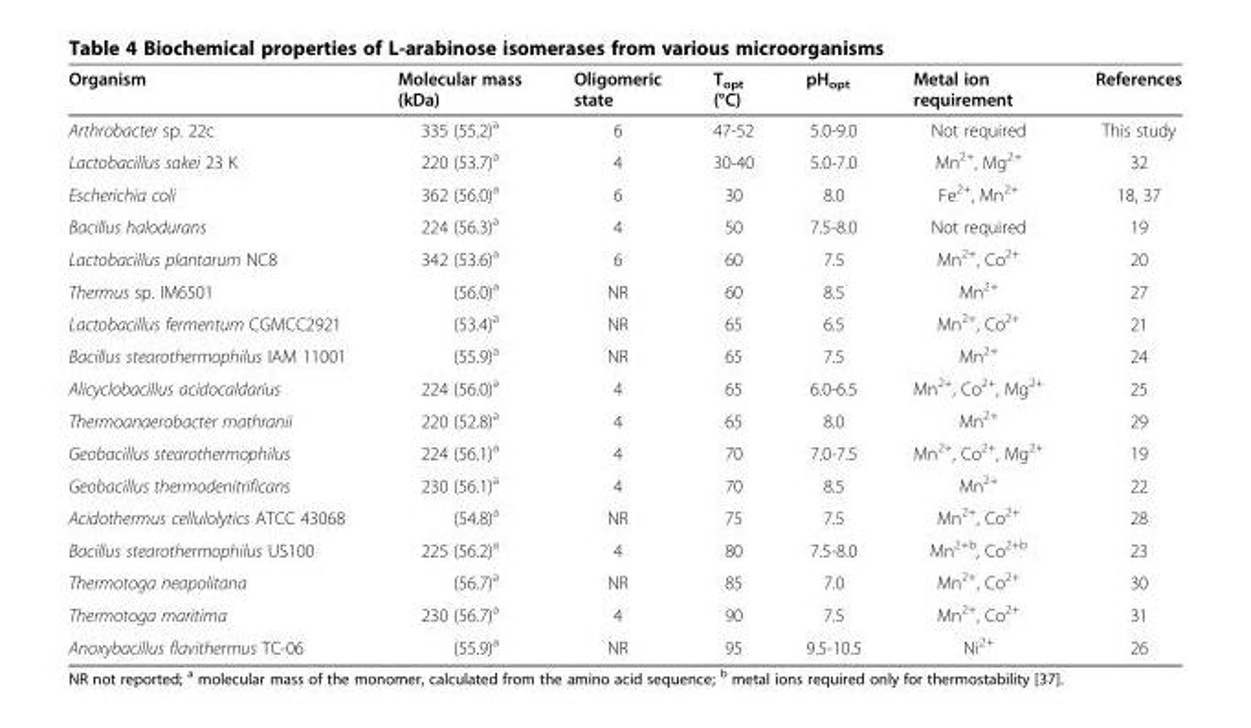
<table><thead><tr><td>Organism</td><td>Molecular mass (kDa)</td><td>Oligomeric state</td><td>T<sub>opt</sub> (°C)</td><td>pH<sub>opt</sub></td><td>Metal ion requirement</td><td>References</td></tr></thead><tbody><tr><td>Arthrobacter sp. 22c</td><td>335 (55.2)<sup>a</sup></td><td>6</td><td>47-52</td><td>5.0-9.0</td><td>Not required</td><td>This study</td></tr><tr><td>Lactobacillus sakei 23 K</td><td>220 (53.7)<sup>a</sup></td><td>4</td><td>30-40</td><td>5.0-7.0</td><td>Mn<sup>2+</sup>, Mg<sup>2+</sup></td><td>32</td></tr><tr><td>Escherichia coli</td><td>362 (56.0)<sup>a</sup></td><td>6</td><td>30</td><td>8.0</td><td>Fe<sup>2+</sup>, Mn<sup>2+</sup></td><td>18, 37</td></tr><tr><td>Bacillus halodurans</td><td>224 (56.3)<sup>a</sup></td><td>4</td><td>50</td><td>7.5-8.0</td><td>Not required</td><td>19</td></tr><tr><td>Lactobacillus plantarum NC8</td><td>342 (53.6)<sup>a</sup></td><td>6</td><td>60</td><td>7.5</td><td>Mn<sup>2+</sup>, Co<sup>2+</sup></td><td>20</td></tr><tr><td>Thermus sp. IM6501</td><td>(56.0)<sup>a</sup></td><td>NR</td><td>60</td><td>8.5</td><td>Mn<sup>2+</sup></td><td>27</td></tr><tr><td>Lactobacillus fermentum CGMCC2921</td><td>(53.4)<sup>a</sup></td><td>NR</td><td>65</td><td>6.5</td><td>Mn<sup>2+</sup>, Co<sup>2+</sup></td><td>21</td></tr><tr><td>Bacillus stearothermophilus IAM 11001</td><td>(55.9)<sup>a</sup></td><td>NR</td><td>65</td><td>7.5</td><td>Mn<sup>2+</sup></td><td>24</td></tr><tr><td>Alicyclobacillus acidocaldarius</td><td>224 (56.0)<sup>a</sup></td><td>4</td><td>65</td><td>6.0-6.5</td><td>Mn<sup>2+</sup>, Co<sup>2+</sup>, Mg<sup>2+</sup></td><td>25</td></tr><tr><td>Thermoanaerobacter mathranii</td><td>220 (52.8)<sup>a</sup></td><td>4</td><td>65</td><td>8.0</td><td>Mn<sup>2+</sup></td><td>29</td></tr><tr><td>Geobacillus stearothermophilus</td><td>224 (56.1)<sup>a</sup></td><td>4</td><td>70</td><td>7.0-7.5</td><td>Mn<sup>2+</sup>, Co<sup>2+</sup>, Mg<sup>2+</sup></td><td>19</td></tr><tr><td>Geobacillus thermodenitrificans</td><td>230 (56.1)<sup>a</sup></td><td>4</td><td>70</td><td>8.5</td><td>Mn<sup>2+</sup></td><td>22</td></tr><tr><td>Acidothermus cellulolytics ATCC 43068</td><td>(54.8)<sup>a</sup></td><td>NR</td><td>75</td><td>7.5</td><td>Mn<sup>2+</sup>, Co<sup>2+</sup></td><td>28</td></tr><tr><td>Bacillus stearothermophilus US100</td><td>225 (56.2)<sup>a</sup></td><td>4</td><td>80</td><td>7.5-8.0</td><td>Mn<sup>2+b</sup>, Co<sup>2+b</sup></td><td>23</td></tr><tr><td>Thermotoga neapolitana</td><td>(56.7)<sup>a</sup></td><td>NR</td><td>85</td><td>7.0</td><td>Mn<sup>2+</sup>, Co<sup>2+</sup></td><td>30</td></tr><tr><td>Thermotoga maritima</td><td>230 (56.7)<sup>a</sup></td><td>4</td><td>90</td><td>7.5</td><td>Mn<sup>2+</sup>, Co<sup>2+</sup></td><td>31</td></tr><tr><td>Anoxybacillus flavithermus TC-06</td><td>(55.9)<sup>a</sup></td><td>NR</td><td>95</td><td>9.5-10.5</td><td>Ni<sup>2+</sup></td><td>26</td></tr></tbody></table>